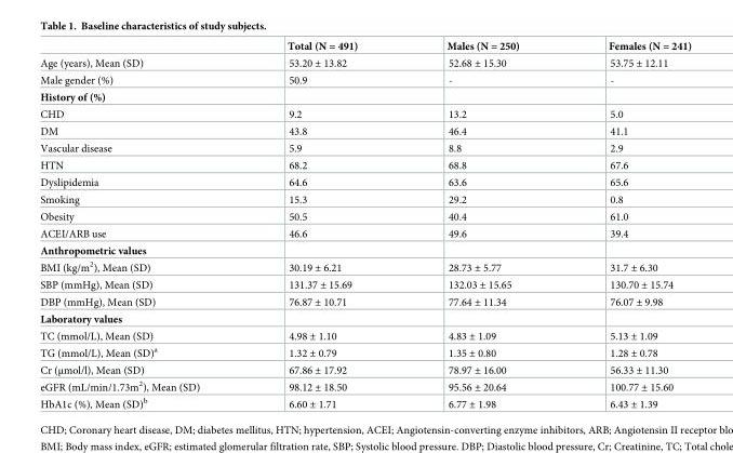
<table><thead><tr><td></td><td>Total (N = 491)</td><td>Males (N = 250)</td><td>Females (N = 241)</td></tr></thead><tbody><tr><td>Age (years), Mean (SD)</td><td>53.20 ± 13.82</td><td>52.68 ± 15.30</td><td>53.75 ± 12.11</td></tr><tr><td>Male gender (%)</td><td>50.9</td><td>-</td><td>-</td></tr><tr><td colspan="4">History of (%)</td></tr><tr><td>CHD</td><td>9.2</td><td>13.2</td><td>5.0</td></tr><tr><td>DM</td><td>43.8</td><td>46.4</td><td>41.1</td></tr><tr><td>Vascular disease</td><td>5.9</td><td>8.8</td><td>2.9</td></tr><tr><td>HTN</td><td>68.2</td><td>68.8</td><td>67.6</td></tr><tr><td>Dyslipidemia</td><td>64.6</td><td>63.6</td><td>65.6</td></tr><tr><td>Smoking</td><td>15.3</td><td>29.2</td><td>0.8</td></tr><tr><td>Obesity</td><td>50.5</td><td>40.4</td><td>61.0</td></tr><tr><td>ACEI/ARB use</td><td>46.6</td><td>49.6</td><td>39.4</td></tr><tr><td colspan="4">Anthropometric values</td></tr><tr><td>BMI (kg/m<sup>2</sup>), Mean (SD)</td><td>30.19 ± 6.21</td><td>28.73 ± 5.77</td><td>31.7 ± 6.30</td></tr><tr><td>SBP (mmHg), Mean (SD)</td><td>131.37 ± 15.69</td><td>132.03 ± 15.65</td><td>130.70 ± 15.74</td></tr><tr><td>DBP (mmHg), Mean (SD)</td><td>76.87 ± 10.71</td><td>77.64 ± 11.34</td><td>76.07 ± 9.98</td></tr><tr><td colspan="4">Laboratory values</td></tr><tr><td>TC (mmol/L), Mean (SD)</td><td>4.98 ± 1.10</td><td>4.83 ± 1.09</td><td>5.13 ± 1.09</td></tr><tr><td>TG (mmol/L), Mean (SD)<sup>a</sup></td><td>1.32 ± 0.79</td><td>1.35 ± 0.80</td><td>1.28 ± 0.78</td></tr><tr><td>Cr (μmol/l), Mean (SD)</td><td>67.86 ± 17.92</td><td>78.97 ± 16.00</td><td>56.33 ± 11.30</td></tr><tr><td>eGFR (mL/min/1.73m<sup>2</sup>), Mean (SD)</td><td>98.12 ± 18.50</td><td>95.56 ± 20.64</td><td>100.77 ± 15.60</td></tr><tr><td>HbA1c (%), Mean (SD)<sup>b</sup></td><td>6.60 ± 1.71</td><td>6.77 ± 1.98</td><td>6.43 ± 1.39</td></tr></tbody></table>